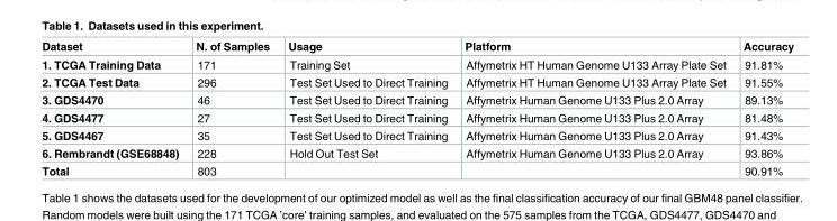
<table><thead><tr><td>Dataset</td><td>N. of Samples</td><td>Usage</td><td>Platform</td><td>Accuracy</td></tr></thead><tbody><tr><td>1. TCGA Training Data</td><td>171</td><td>Training Set</td><td>Affymetrix HT Human Genome U133 Array Plate Set</td><td>91.81%</td></tr><tr><td>2. TCGA Test Data</td><td>296</td><td>Test Set Used to Direct Training</td><td>Affymetrix HT Human Genome U133 Array Plate Set</td><td>91.55%</td></tr><tr><td>3. GDS4470</td><td>46</td><td>Test Set Used to Direct Training</td><td>Affymetrix Human Genome U133 Plus 2.0 Array</td><td>89.13%</td></tr><tr><td>4. GDS4477</td><td>27</td><td>Test Set Used to Direct Training</td><td>Affymetrix Human Genome U133 Plus 2.0 Array</td><td>81.48%</td></tr><tr><td>5. GDS4467</td><td>35</td><td>Test Set Used to Direct Training</td><td>Affymetrix Human Genome U133 Plus 2.0 Array</td><td>91.43%</td></tr><tr><td>6. Rembrandt (GSE68848)</td><td>228</td><td>Hold Out Test Set</td><td>Affymetrix Human Genome U133 Plus 2.0 Array</td><td>93.86%</td></tr><tr><td>Total</td><td>803</td><td></td><td></td><td>90.91%</td></tr></tbody></table>